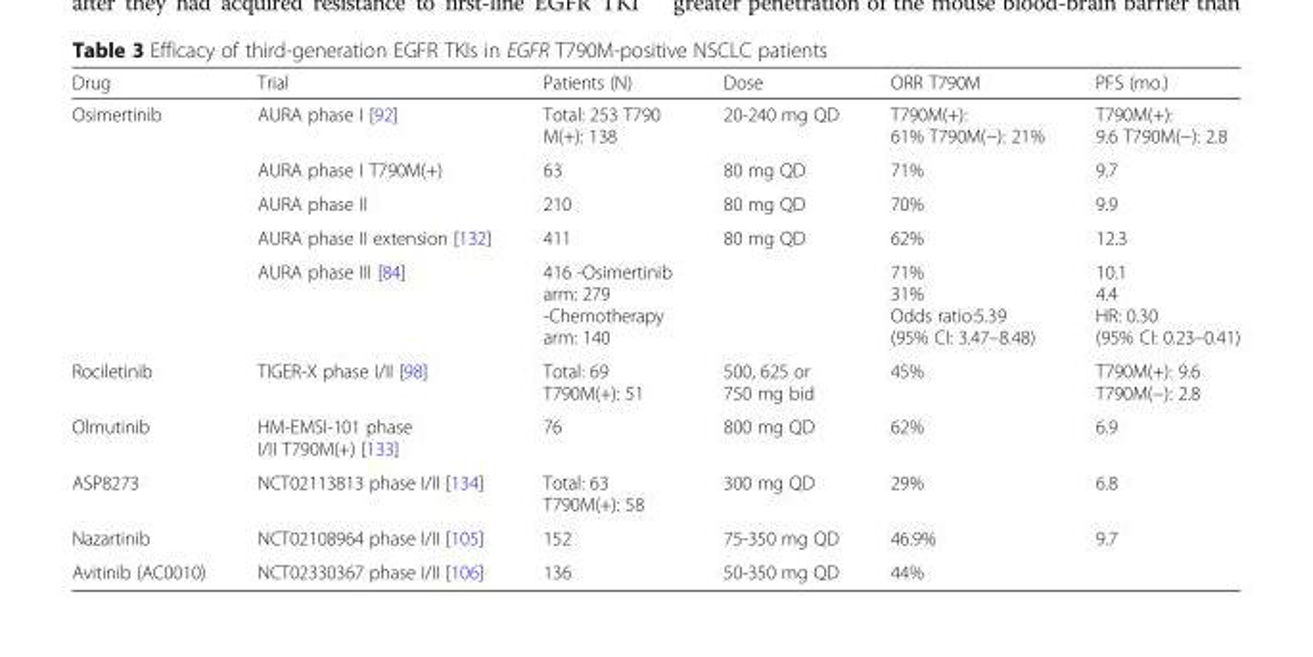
<table><thead><tr><td>Drug</td><td>Trial</td><td>Patients (N)</td><td>Dose</td><td>ORR T790M</td><td>PFS (mo.)</td></tr></thead><tbody><tr><td rowspan="5">Osimertinib</td><td>AURA phase I [92]</td><td>Total: 253 T790 M(+): 138</td><td>20-240 mg QD</td><td>T790M(+): 61% T790M(−): 21%</td><td>T790M(+): 9.6 T790M(−): 2.8</td></tr><tr><td>AURA phase I T790M(+)</td><td>63</td><td>80 mg QD</td><td>71%</td><td>9.7</td></tr><tr><td>AURA phase II</td><td>210</td><td>80 mg QD</td><td>70%</td><td>9.9</td></tr><tr><td>AURA phase II extension [132]</td><td>411</td><td>80 mg QD</td><td>62%</td><td>12.3</td></tr><tr><td>AURA phase III [84]</td><td>416 -Osimertinib arm: 279 -Chemotherapy arm: 140</td><td></td><td>71% 31% Odds ratio:5.39 (95% CI: 3.47–8.48)</td><td>10.1 4.4 HR: 0.30 (95% CI: 0.23–0.41)</td></tr><tr><td>Rociletinib</td><td>TIGER-X phase I/II [98]</td><td>Total: 69 T790M(+): 51</td><td>500, 625 or 750 mg bid</td><td>45%</td><td>T790M(+): 9.6 T790M(−): 2.8</td></tr><tr><td>Olmutinib</td><td>HM-EMSI-101 phase I/II T790M(+) [133]</td><td>76</td><td>800 mg QD</td><td>62%</td><td>6.9</td></tr><tr><td>ASP8273</td><td>NCT02113813 phase I/II [134]</td><td>Total: 63 T790M(+): 58</td><td>300 mg QD</td><td>29%</td><td>6.8</td></tr><tr><td>Nazartinib</td><td>NCT02108964 phase I/II [105]</td><td>152</td><td>75-350 mg QD</td><td>46.9%</td><td>9.7</td></tr><tr><td>Avitinib (AC0010)</td><td>NCT02330367 phase I/II [106]</td><td>136</td><td>50-350 mg QD</td><td>44%</td><td></td></tr></tbody></table>